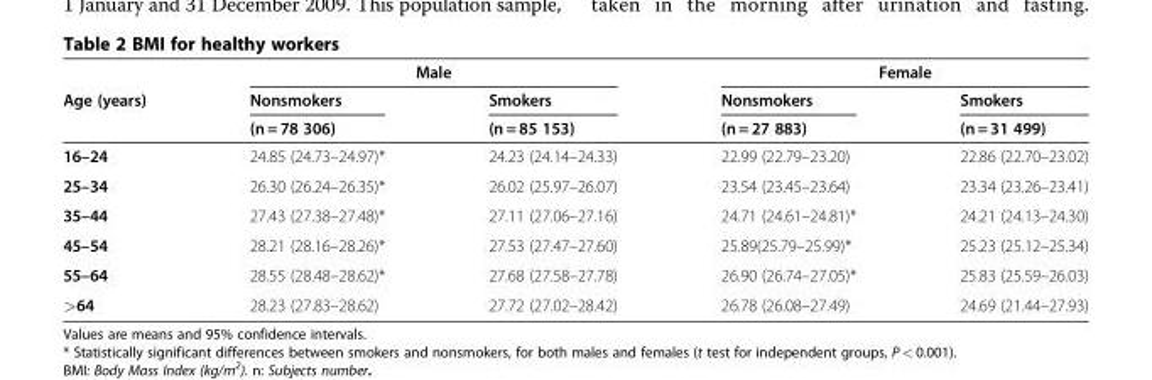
<table><thead><tr><td rowspan="3">Age (years)</td><td colspan="2">Male</td><td colspan="2">Female</td></tr><tr><td rowspan="2">Nonsmokers (n = 78 306)</td><td rowspan="2">Smokers (n = 85 153)</td><td rowspan="2">Nonsmokers (n = 27 883)</td><td rowspan="2">Smokers (n = 31 499)</td></tr><tr></tr></thead><tbody><tr><td>16–24</td><td>24.85 (24.73–24.97)*</td><td>24.23 (24.14–24.33)</td><td>22.99 (22.79–23.20)</td><td>22.86 (22.70–23.02)</td></tr><tr><td>25–34</td><td>26.30 (26.24–26.35)*</td><td>26.02 (25.97–26.07)</td><td>23.54 (23.45–23.64)</td><td>23.34 (23.26–23.41)</td></tr><tr><td>35–44</td><td>27.43 (27.38–27.48)*</td><td>27.11 (27.06–27.16)</td><td>24.71 (24.61–24.81)*</td><td>24.21 (24.13–24.30)</td></tr><tr><td>45–54</td><td>28.21 (28.16–28.26)*</td><td>27.53 (27.47–27.60)</td><td>25.89(25.79–25.99)*</td><td>25.23 (25.12–25.34)</td></tr><tr><td>55–64</td><td>28.55 (28.48–28.62)*</td><td>27.68 (27.58–27.78)</td><td>26.90 (26.74–27.05)*</td><td>25.83 (25.59–26.03)</td></tr><tr><td>&gt;64</td><td>28.23 (27.83–28.62)</td><td>27.72 (27.02–28.42)</td><td>26.78 (26.08–27.49)</td><td>24.69 (21.44–27.93)</td></tr></tbody></table>